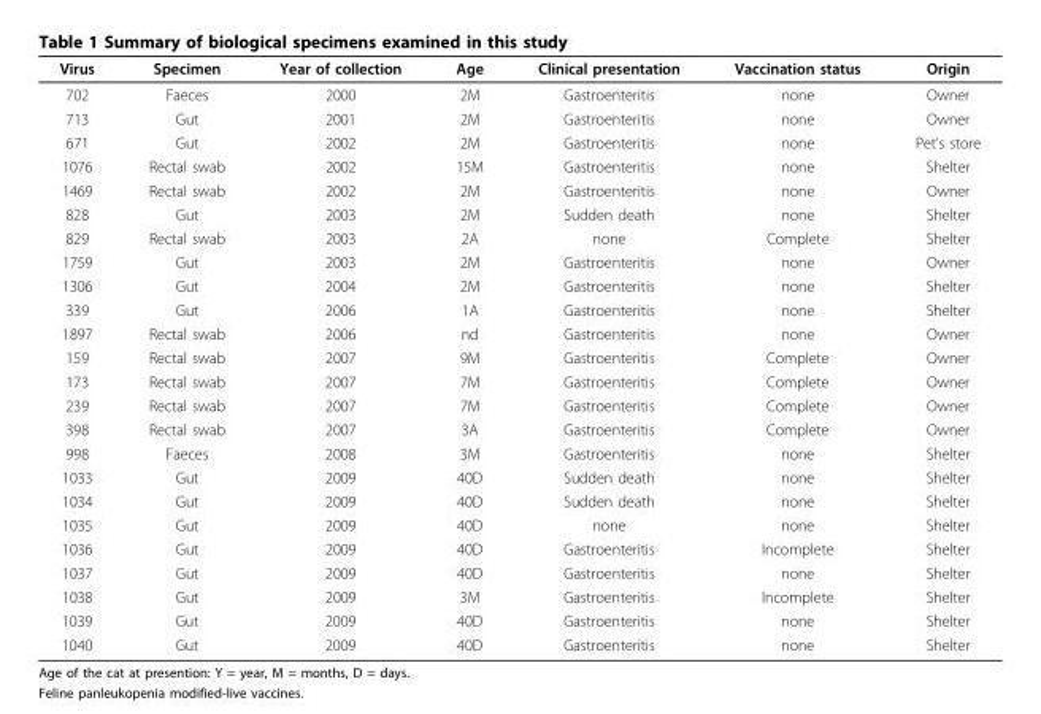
<table><thead><tr><td>Virus</td><td>Specimen</td><td>Year of collection</td><td>Age</td><td>Clinical presentation</td><td>Vaccination status</td><td>Origin</td></tr></thead><tbody><tr><td>702</td><td>Faeces</td><td>2000</td><td>2M</td><td>Gastroenteritis</td><td>none</td><td>Owner</td></tr><tr><td>713</td><td>Gut</td><td>2001</td><td>2M</td><td>Gastroenteritis</td><td>none</td><td>Owner</td></tr><tr><td>671</td><td>Gut</td><td>2002</td><td>2M</td><td>Gastroenteritis</td><td>none</td><td>Pet’s store</td></tr><tr><td>1076</td><td>Rectal swab</td><td>2002</td><td>15M</td><td>Gastroenteritis</td><td>none</td><td>Shelter</td></tr><tr><td>1469</td><td>Rectal swab</td><td>2002</td><td>2M</td><td>Gastroenteritis</td><td>none</td><td>Owner</td></tr><tr><td>828</td><td>Gut</td><td>2003</td><td>2M</td><td>Sudden death</td><td>none</td><td>Shelter</td></tr><tr><td>829</td><td>Rectal swab</td><td>2003</td><td>2A</td><td>none</td><td>Complete</td><td>Shelter</td></tr><tr><td>1759</td><td>Gut</td><td>2003</td><td>2M</td><td>Gastroenteritis</td><td>none</td><td>Owner</td></tr><tr><td>1306</td><td>Gut</td><td>2004</td><td>2M</td><td>Gastroenteritis</td><td>none</td><td>Shelter</td></tr><tr><td>339</td><td>Gut</td><td>2006</td><td>1A</td><td>Gastroenteritis</td><td>none</td><td>Shelter</td></tr><tr><td>1897</td><td>Rectal swab</td><td>2006</td><td>nd</td><td>Gastroenteritis</td><td>none</td><td>Owner</td></tr><tr><td>159</td><td>Rectal swab</td><td>2007</td><td>9M</td><td>Gastroenteritis</td><td>Complete</td><td>Owner</td></tr><tr><td>173</td><td>Rectal swab</td><td>2007</td><td>7M</td><td>Gastroenteritis</td><td>Complete</td><td>Owner</td></tr><tr><td>239</td><td>Rectal swab</td><td>2007</td><td>7M</td><td>Gastroenteritis</td><td>Complete</td><td>Owner</td></tr><tr><td>398</td><td>Rectal swab</td><td>2007</td><td>3A</td><td>Gastroenteritis</td><td>Complete</td><td>Owner</td></tr><tr><td>998</td><td>Faeces</td><td>2008</td><td>3M</td><td>Gastroenteritis</td><td>none</td><td>Shelter</td></tr><tr><td>1033</td><td>Gut</td><td>2009</td><td>40D</td><td>Sudden death</td><td>none</td><td>Shelter</td></tr><tr><td>1034</td><td>Gut</td><td>2009</td><td>40D</td><td>Sudden death</td><td>none</td><td>Shelter</td></tr><tr><td>1035</td><td>Gut</td><td>2009</td><td>40D</td><td>none</td><td>none</td><td>Shelter</td></tr><tr><td>1036</td><td>Gut</td><td>2009</td><td>40D</td><td>Gastroenteritis</td><td>Incomplete</td><td>Shelter</td></tr><tr><td>1037</td><td>Gut</td><td>2009</td><td>40D</td><td>Gastroenteritis</td><td>none</td><td>Shelter</td></tr><tr><td>1038</td><td>Gut</td><td>2009</td><td>3M</td><td>Gastroenteritis</td><td>Incomplete</td><td>Shelter</td></tr><tr><td>1039</td><td>Gut</td><td>2009</td><td>40D</td><td>Gastroenteritis</td><td>none</td><td>Shelter</td></tr><tr><td>1040</td><td>Gut</td><td>2009</td><td>40D</td><td>Gastroenteritis</td><td>none</td><td>Shelter</td></tr></tbody></table>